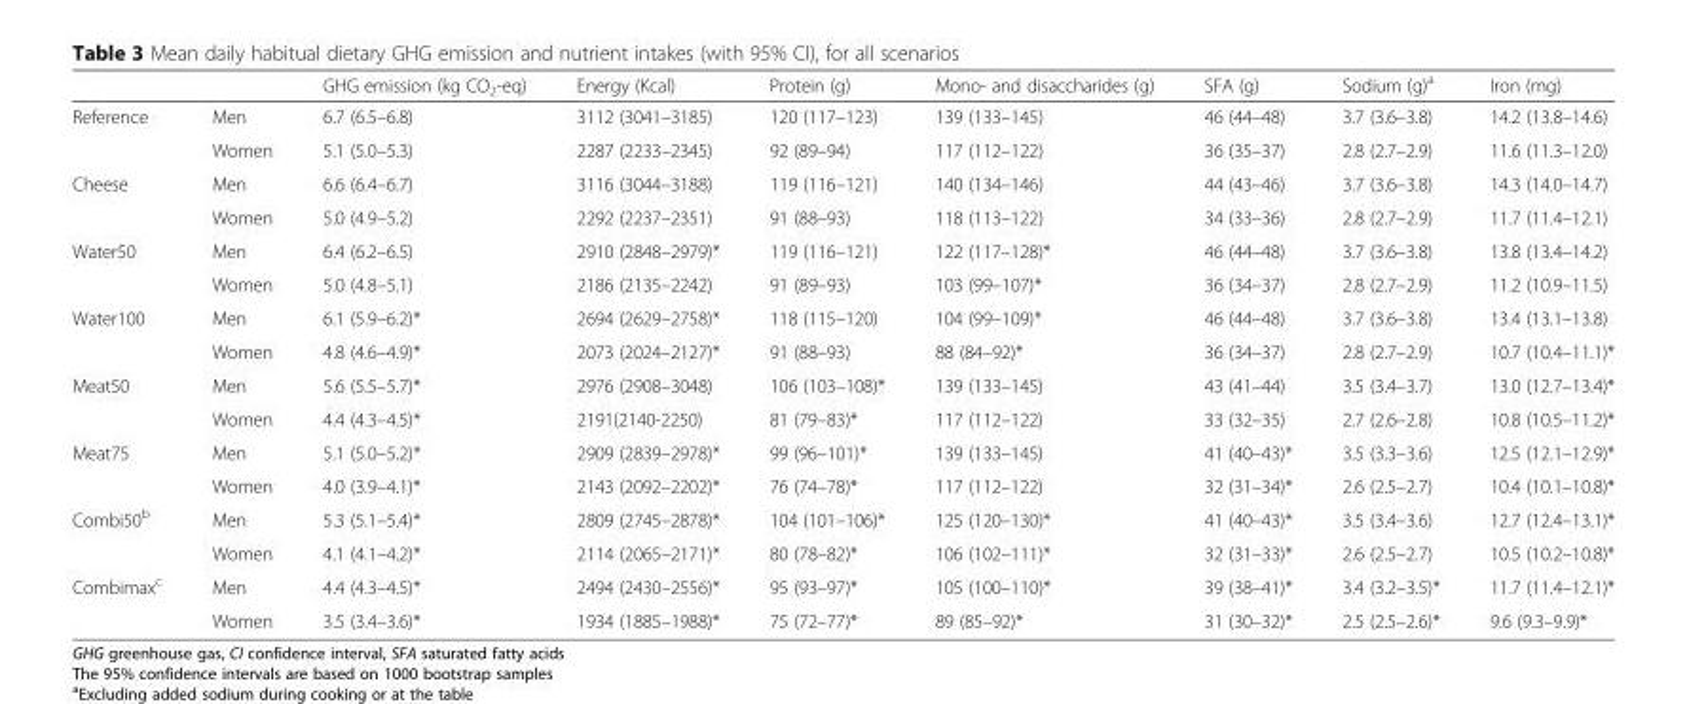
<table><thead><tr><td></td><td></td><td>GHG emission (kg CO<sub>2</sub>-eq)</td><td>Energy (Kcal)</td><td>Protein (g)</td><td>Mono- and disaccharides (g)</td><td>SFA (g)</td><td>Sodium (g)<sup>a</sup></td><td>Iron (mg)</td></tr></thead><tbody><tr><td rowspan="2">Reference</td><td>Men</td><td>6.7 (6.5–6.8)</td><td>3112 (3041–3185)</td><td>120 (117–123)</td><td>139 (133–145)</td><td>46 (44–48)</td><td>3.7 (3.6–3.8)</td><td>14.2 (13.8–14.6)</td></tr><tr><td>Women</td><td>5.1 (5.0–5.3)</td><td>2287 (2233–2345)</td><td>92 (89–94)</td><td>117 (112–122)</td><td>36 (35–37)</td><td>2.8 (2.7–2.9)</td><td>11.6 (11.3–12.0)</td></tr><tr><td rowspan="2">Cheese</td><td>Men</td><td>6.6 (6.4–6.7)</td><td>3116 (3044–3188)</td><td>119 (116–121)</td><td>140 (134–146)</td><td>44 (43–46)</td><td>3.7 (3.6–3.8)</td><td>14.3 (14.0–14.7)</td></tr><tr><td>Women</td><td>5.0 (4.9–5.2)</td><td>2292 (2237–2351)</td><td>91 (88–93)</td><td>118 (113–122)</td><td>34 (33–36)</td><td>2.8 (2.7–2.9)</td><td>11.7 (11.4–12.1)</td></tr><tr><td rowspan="2">Water50</td><td>Men</td><td>6.4 (6.2–6.5)</td><td>2910 (2848–2979)*</td><td>119 (116–121)</td><td>122 (117–128)*</td><td>46 (44–48)</td><td>3.7 (3.6–3.8)</td><td>13.8 (13.4–14.2)</td></tr><tr><td>Women</td><td>5.0 (4.8–5.1)</td><td>2186 (2135–2242)</td><td>91 (89–93)</td><td>103 (99–107)*</td><td>36 (34–37)</td><td>2.8 (2.7–2.9)</td><td>11.2 (10.9–11.5)</td></tr><tr><td rowspan="2">Water100</td><td>Men</td><td>6.1 (5.9–6.2)*</td><td>2694 (2629–2758)*</td><td>118 (115–120)</td><td>104 (99–109)*</td><td>46 (44–48)</td><td>3.7 (3.6–3.8)</td><td>13.4 (13.1–13.8)</td></tr><tr><td>Women</td><td>4.8 (4.6–4.9)*</td><td>2073 (2024–2127)*</td><td>91 (88–93)</td><td>88 (84–92)*</td><td>36 (34–37)</td><td>2.8 (2.7–2.9)</td><td>10.7 (10.4–11.1)*</td></tr><tr><td rowspan="2">Meat50</td><td>Men</td><td>5.6 (5.5–5.7)*</td><td>2976 (2908–3048)</td><td>106 (103–108)*</td><td>139 (133–145)</td><td>43 (41–44)</td><td>3.5 (3.4–3.7)</td><td>13.0 (12.7–13.4)*</td></tr><tr><td>Women</td><td>4.4 (4.3–4.5)*</td><td>2191(2140-2250)</td><td>81 (79–83)*</td><td>117 (112–122)</td><td>33 (32–35)</td><td>2.7 (2.6–2.8)</td><td>10.8 (10.5–11.2)*</td></tr><tr><td rowspan="2">Meat75</td><td>Men</td><td>5.1 (5.0–5.2)*</td><td>2909 (2839–2978)*</td><td>99 (96–101)*</td><td>139 (133–145)</td><td>41 (40–43)*</td><td>3.5 (3.3–3.6)</td><td>12.5 (12.1–12.9)*</td></tr><tr><td>Women</td><td>4.0 (3.9–4.1)*</td><td>2143 (2092–2202)*</td><td>76 (74–78)*</td><td>117 (112–122)</td><td>32 (31–34)*</td><td>2.6 (2.5–2.7)</td><td>10.4 (10.1–10.8)*</td></tr><tr><td rowspan="2">Combi50<sup>b</sup></td><td>Men</td><td>5.3 (5.1–5.4)*</td><td>2809 (2745–2878)*</td><td>104 (101–106)*</td><td>125 (120–130)*</td><td>41 (40–43)*</td><td>3.5 (3.4–3.6)</td><td>12.7 (12.4–13.1)*</td></tr><tr><td>Women</td><td>4.1 (4.1–4.2)*</td><td>2114 (2065–2171)*</td><td>80 (78–82)*</td><td>106 (102–111)*</td><td>32 (31–33)*</td><td>2.6 (2.5–2.7)</td><td>10.5 (10.2–10.8)*</td></tr><tr><td rowspan="2">Combimax<sup>c</sup></td><td>Men</td><td>4.4 (4.3–4.5)*</td><td>2494 (2430–2556)*</td><td>95 (93–97)*</td><td>105 (100–110)*</td><td>39 (38–41)*</td><td>3.4 (3.2–3.5)*</td><td>11.7 (11.4–12.1)*</td></tr><tr><td>Women</td><td>3.5 (3.4–3.6)*</td><td>1934 (1885–1988)*</td><td>75 (72–77)*</td><td>89 (85–92)*</td><td>31 (30–32)*</td><td>2.5 (2.5–2.6)*</td><td>9.6 (9.3–9.9)*</td></tr></tbody></table>